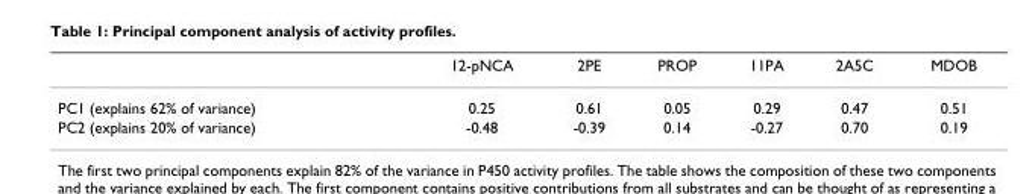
<table><thead><tr><td></td><td>12-pNCA</td><td>2PE</td><td>PROP</td><td>11PA</td><td>2A5C</td><td>MDOB</td></tr></thead><tbody><tr><td>PC1 (explains 62% of variance)</td><td>0.25</td><td>0.61</td><td>0.05</td><td>0.29</td><td>0.47</td><td>0.51</td></tr><tr><td>PC2 (explains 20% of variance)</td><td>-0.48</td><td>-0.39</td><td>0.14</td><td>-0.27</td><td>0.70</td><td>0.19</td></tr></tbody></table>